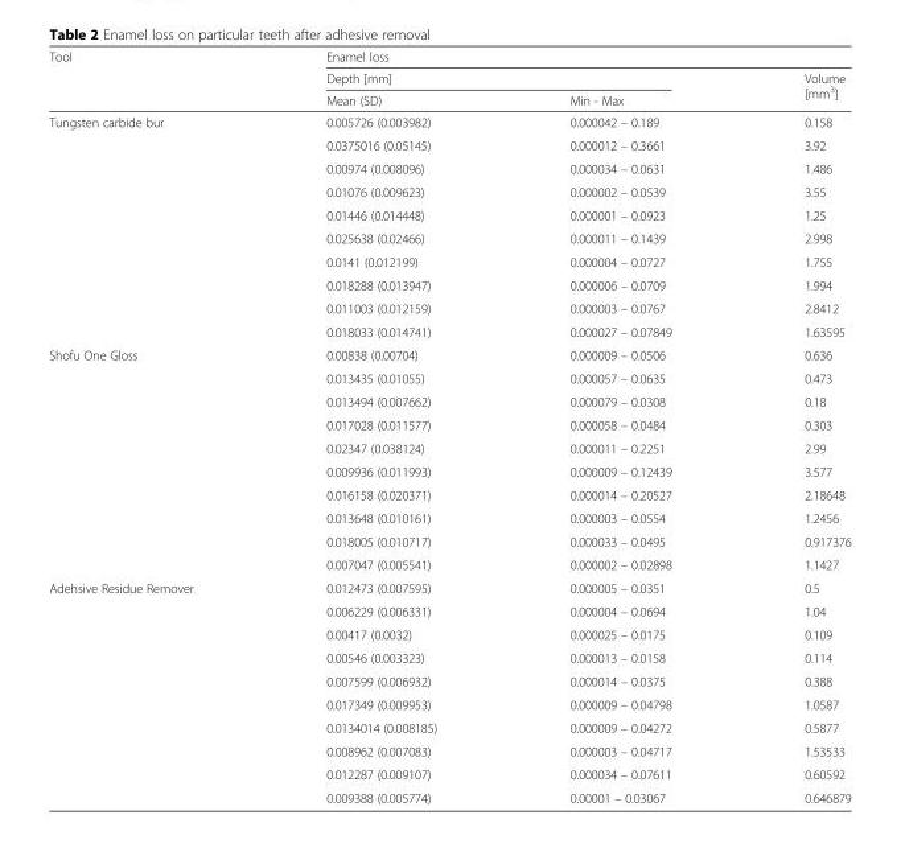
<table><thead><tr><td rowspan="3">Tool</td><td colspan="3">Enamel loss</td></tr><tr><td colspan="2">Depth [mm]</td><td rowspan="2">Volume [mm<sup>3</sup>]</td></tr><tr><td>Mean (SD)</td><td>Min - Max</td></tr></thead><tbody><tr><td rowspan="10">Tungsten carbide bur</td><td>0.005726 (0.003982)</td><td>0.000042 – 0.189</td><td>0.158</td></tr><tr><td>0.0375016 (0.05145)</td><td>0.000012 – 0.3661</td><td>3.92</td></tr><tr><td>0.00974 (0.008096)</td><td>0.000034 – 0.0631</td><td>1.486</td></tr><tr><td>0.01076 (0.009623)</td><td>0.000002 – 0.0539</td><td>3.55</td></tr><tr><td>0.01446 (0.014448)</td><td>0.000001 – 0.0923</td><td>1.25</td></tr><tr><td>0.025638 (0.02466)</td><td>0.000011 – 0.1439</td><td>2.998</td></tr><tr><td>0.0141 (0.012199)</td><td>0.000004 – 0.0727</td><td>1.755</td></tr><tr><td>0.018288 (0.013947)</td><td>0.000006 – 0.0709</td><td>1.994</td></tr><tr><td>0.011003 (0.012159)</td><td>0.000003 – 0.0767</td><td>2.8412</td></tr><tr><td>0.018033 (0.014741)</td><td>0.000027 – 0.07849</td><td>1.63595</td></tr><tr><td rowspan="10">Shofu One Gloss</td><td>0.00838 (0.00704)</td><td>0.000009 – 0.0506</td><td>0.636</td></tr><tr><td>0.013435 (0.01055)</td><td>0.000057 – 0.0635</td><td>0.473</td></tr><tr><td>0.013494 (0.007662)</td><td>0.000079 – 0.0308</td><td>0.18</td></tr><tr><td>0.017028 (0.011577)</td><td>0.000058 – 0.0484</td><td>0.303</td></tr><tr><td>0.02347 (0.038124)</td><td>0.000011 – 0.2251</td><td>2.99</td></tr><tr><td>0.009936 (0.011993)</td><td>0.000009 – 0.12439</td><td>3.577</td></tr><tr><td>0.016158 (0.020371)</td><td>0.000014 – 0.20527</td><td>2.18648</td></tr><tr><td>0.013648 (0.010161)</td><td>0.000003 – 0.0554</td><td>1.2456</td></tr><tr><td>0.018005 (0.010717)</td><td>0.000033 – 0.0495</td><td>0.917376</td></tr><tr><td>0.007047 (0.005541)</td><td>0.000002 – 0.02898</td><td>1.1427</td></tr><tr><td rowspan="10">Adehsive Residue Remover</td><td>0.012473 (0.007595)</td><td>0.000005 – 0.0351</td><td>0.5</td></tr><tr><td>0.006229 (0.006331)</td><td>0.000004 – 0.0694</td><td>1.04</td></tr><tr><td>0.00417 (0.0032)</td><td>0.000025 – 0.0175</td><td>0.109</td></tr><tr><td>0.00546 (0.003323)</td><td>0.000013 – 0.0158</td><td>0.114</td></tr><tr><td>0.007599 (0.006932)</td><td>0.000014 – 0.0375</td><td>0.388</td></tr><tr><td>0.017349 (0.009953)</td><td>0.000009 – 0.04798</td><td>1.0587</td></tr><tr><td>0.0134014 (0.008185)</td><td>0.000009 – 0.04272</td><td>0.5877</td></tr><tr><td>0.008962 (0.007083)</td><td>0.000003 – 0.04717</td><td>1.53533</td></tr><tr><td>0.012287 (0.009107)</td><td>0.000034 – 0.07611</td><td>0.60592</td></tr><tr><td>0.009388 (0.005774)</td><td>0.00001 – 0.03067</td><td>0.646879</td></tr></tbody></table>